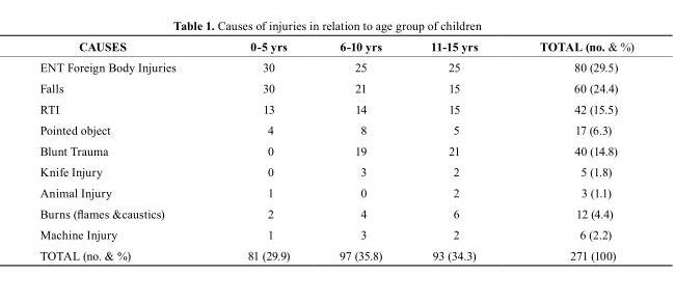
<table><thead><tr><td>CAUSES</td><td>0-5 yrs</td><td>6-10 yrs</td><td>11-15 yrs</td><td>TOTAL (no. &amp; %)</td></tr></thead><tbody><tr><td>ENT Foreign Body Injuries</td><td>30</td><td>25</td><td>25</td><td>80 (29.5)</td></tr><tr><td>Falls</td><td>30</td><td>21</td><td>15</td><td>60 (24.4)</td></tr><tr><td>RTI</td><td>13</td><td>14</td><td>15</td><td>42 (15.5)</td></tr><tr><td>Pointed object</td><td>4</td><td>8</td><td>5</td><td>17 (6.3)</td></tr><tr><td>Blunt Trauma</td><td>0</td><td>19</td><td>21</td><td>40 (14.8)</td></tr><tr><td>Knife Injury</td><td>0</td><td>3</td><td>2</td><td>5 (1.8)</td></tr><tr><td>Animal Injury</td><td>1</td><td>0</td><td>2</td><td>3 (1.1)</td></tr><tr><td>Burns (flames &amp;caustics)</td><td>2</td><td>4</td><td>6</td><td>12 (4.4)</td></tr><tr><td>Machine Injury</td><td>1</td><td>3</td><td>2</td><td>6 (2.2)</td></tr><tr><td>TOTAL (no. &amp; %)</td><td>81 (29.9)</td><td>97 (35.8)</td><td>93 (34.3)</td><td>271 (100)</td></tr></tbody></table>